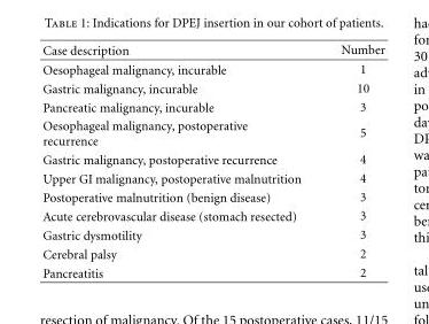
<table><thead><tr><td>Case description</td><td>Number</td></tr></thead><tbody><tr><td>Oesophageal malignancy, incurable</td><td>1</td></tr><tr><td>Gastric malignancy, incurable</td><td>10</td></tr><tr><td>Pancreatic malignancy, incurable</td><td>3</td></tr><tr><td>Oesophageal malignancy, postoperative recurrence</td><td>5</td></tr><tr><td>Gastric malignancy, postoperative recurrence</td><td>4</td></tr><tr><td>Upper GI malignancy, postoperative malnutrition</td><td>4</td></tr><tr><td>Postoperative malnutrition (benign disease)</td><td>3</td></tr><tr><td>Acute cerebrovascular disease (stomach resected)</td><td>3</td></tr><tr><td>Gastric dysmotility</td><td>3</td></tr><tr><td>Cerebral palsy</td><td>2</td></tr><tr><td>Pancreatitis</td><td>2</td></tr></tbody></table>